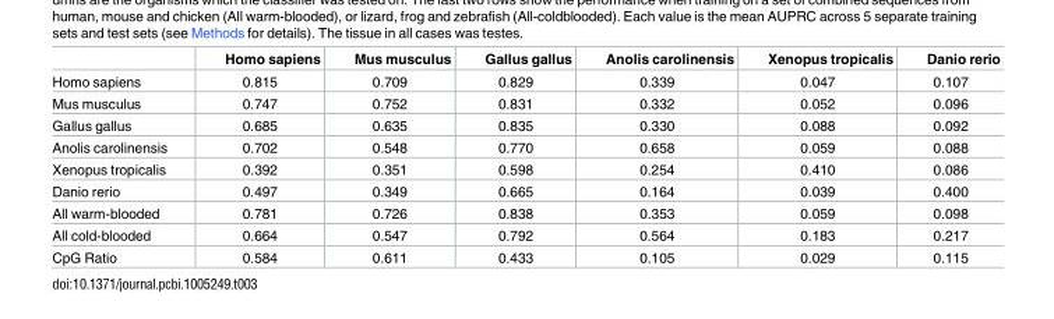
<table><thead><tr><td></td><td>Homo sapiens</td><td>Mus musculus</td><td>Gallus gallus</td><td>Anolis carolinensis</td><td>Xenopus tropicalis</td><td>Danio rerio</td></tr></thead><tbody><tr><td>Homo sapiens</td><td>0.815</td><td>0.709</td><td>0.829</td><td>0.339</td><td>0.047</td><td>0.107</td></tr><tr><td>Mus musculus</td><td>0.747</td><td>0.752</td><td>0.831</td><td>0.332</td><td>0.052</td><td>0.096</td></tr><tr><td>Gallus gallus</td><td>0.685</td><td>0.635</td><td>0.835</td><td>0.330</td><td>0.088</td><td>0.092</td></tr><tr><td>Anolis carolinensis</td><td>0.702</td><td>0.548</td><td>0.770</td><td>0.658</td><td>0.059</td><td>0.088</td></tr><tr><td>Xenopus tropicalis</td><td>0.392</td><td>0.351</td><td>0.598</td><td>0.254</td><td>0.410</td><td>0.086</td></tr><tr><td>Danio rerio</td><td>0.497</td><td>0.349</td><td>0.665</td><td>0.164</td><td>0.039</td><td>0.400</td></tr><tr><td>All warm-blooded</td><td>0.781</td><td>0.726</td><td>0.838</td><td>0.353</td><td>0.059</td><td>0.098</td></tr><tr><td>All cold-blooded</td><td>0.664</td><td>0.547</td><td>0.792</td><td>0.564</td><td>0.183</td><td>0.217</td></tr><tr><td>CpG Ratio</td><td>0.584</td><td>0.611</td><td>0.433</td><td>0.105</td><td>0.029</td><td>0.115</td></tr></tbody></table>